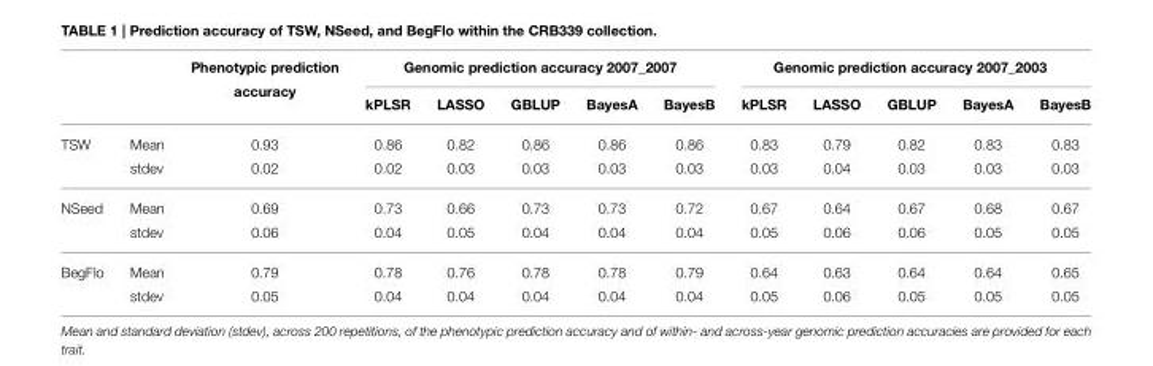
<table><thead><tr><td rowspan="2"></td><td rowspan="2"></td><td rowspan="2">Phenotypic prediction accuracy</td><td colspan="5">Genomic prediction accuracy 2007_2007</td><td colspan="5">Genomic prediction accuracy 2007_2003</td></tr><tr><td>kPLSR</td><td>LASSO</td><td>GBLUP</td><td>BayesA</td><td>BayesB</td><td>kPLSR</td><td>LASSO</td><td>GBLUP</td><td>BayesA</td><td>BayesB</td></tr></thead><tbody><tr><td rowspan="2">TSW</td><td>Mean</td><td>0.93</td><td>0.86</td><td>0.82</td><td>0.86</td><td>0.86</td><td>0.86</td><td>0.83</td><td>0.79</td><td>0.82</td><td>0.83</td><td>0.83</td></tr><tr><td>stdev</td><td>0.02</td><td>0.02</td><td>0.03</td><td>0.03</td><td>0.03</td><td>0.03</td><td>0.03</td><td>0.04</td><td>0.03</td><td>0.03</td><td>0.03</td></tr><tr><td rowspan="2">NSeed</td><td>Mean</td><td>0.69</td><td>0.73</td><td>0.66</td><td>0.73</td><td>0.73</td><td>0.72</td><td>0.67</td><td>0.64</td><td>0.67</td><td>0.68</td><td>0.67</td></tr><tr><td>stdev</td><td>0.06</td><td>0.04</td><td>0.05</td><td>0.04</td><td>0.04</td><td>0.04</td><td>0.05</td><td>0.06</td><td>0.06</td><td>0.05</td><td>0.05</td></tr><tr><td rowspan="2">BegFlo</td><td>Mean</td><td>0.79</td><td>0.78</td><td>0.76</td><td>0.78</td><td>0.78</td><td>0.79</td><td>0.64</td><td>0.63</td><td>0.64</td><td>0.64</td><td>0.65</td></tr><tr><td>stdev</td><td>0.05</td><td>0.04</td><td>0.04</td><td>0.04</td><td>0.04</td><td>0.04</td><td>0.05</td><td>0.06</td><td>0.05</td><td>0.05</td><td>0.05</td></tr></tbody></table>